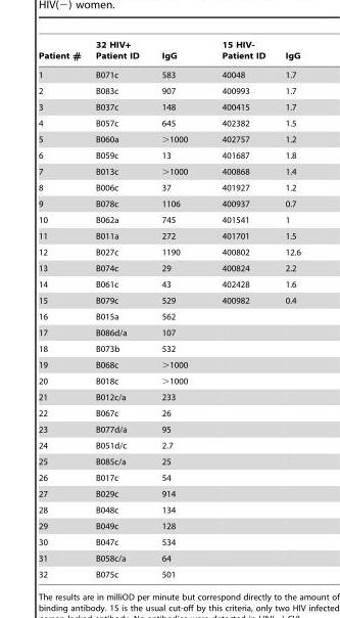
<table><thead><tr><td>Patient #</td><td>32 HIV+ Patient ID</td><td>IgG</td><td>15 HIV- Patient ID</td><td>IgG</td></tr></thead><tbody><tr><td>1</td><td>B071c</td><td>583</td><td>40048</td><td>1.7</td></tr><tr><td>2</td><td>B083c</td><td>907</td><td>400993</td><td>1.7</td></tr><tr><td>3</td><td>B037c</td><td>148</td><td>400415</td><td>1.7</td></tr><tr><td>4</td><td>B057c</td><td>645</td><td>402382</td><td>1.5</td></tr><tr><td>5</td><td>B060a</td><td>&gt;1000</td><td>402757</td><td>1.2</td></tr><tr><td>6</td><td>B059c</td><td>13</td><td>401687</td><td>1.8</td></tr><tr><td>7</td><td>B013c</td><td>&gt;1000</td><td>400868</td><td>1.4</td></tr><tr><td>8</td><td>B006c</td><td>37</td><td>401927</td><td>1.2</td></tr><tr><td>9</td><td>B078c</td><td>1106</td><td>400937</td><td>0.7</td></tr><tr><td>10</td><td>B062a</td><td>745</td><td>401541</td><td>1</td></tr><tr><td>11</td><td>B011a</td><td>272</td><td>401701</td><td>1.5</td></tr><tr><td>12</td><td>B027c</td><td>1190</td><td>400802</td><td>12.6</td></tr><tr><td>13</td><td>B074c</td><td>29</td><td>400824</td><td>2.2</td></tr><tr><td>14</td><td>B061c</td><td>43</td><td>402428</td><td>1.6</td></tr><tr><td>15</td><td>B079c</td><td>529</td><td>400982</td><td>0.4</td></tr><tr><td>16</td><td>B015a</td><td>562</td><td></td><td></td></tr><tr><td>17</td><td>B086d/a</td><td>107</td><td></td><td></td></tr><tr><td>18</td><td>B073b</td><td>532</td><td></td><td></td></tr><tr><td>19</td><td>B068c</td><td>&gt;1000</td><td></td><td></td></tr><tr><td>20</td><td>B018c</td><td>&gt;1000</td><td></td><td></td></tr><tr><td>21</td><td>B012c/a</td><td>233</td><td></td><td></td></tr><tr><td>22</td><td>B067c</td><td>26</td><td></td><td></td></tr><tr><td>23</td><td>B077d/a</td><td>95</td><td></td><td></td></tr><tr><td>24</td><td>B051d/c</td><td>2.7</td><td></td><td></td></tr><tr><td>25</td><td>B085c/a</td><td>25</td><td></td><td></td></tr><tr><td>26</td><td>B017c</td><td>54</td><td></td><td></td></tr><tr><td>27</td><td>B029c</td><td>914</td><td></td><td></td></tr><tr><td>28</td><td>B048c</td><td>134</td><td></td><td></td></tr><tr><td>29</td><td>B049c</td><td>128</td><td></td><td></td></tr><tr><td>30</td><td>B047c</td><td>534</td><td></td><td></td></tr><tr><td>31</td><td>B058c/a</td><td>64</td><td></td><td></td></tr><tr><td>32</td><td>B075c</td><td>501</td><td></td><td></td></tr></tbody></table>